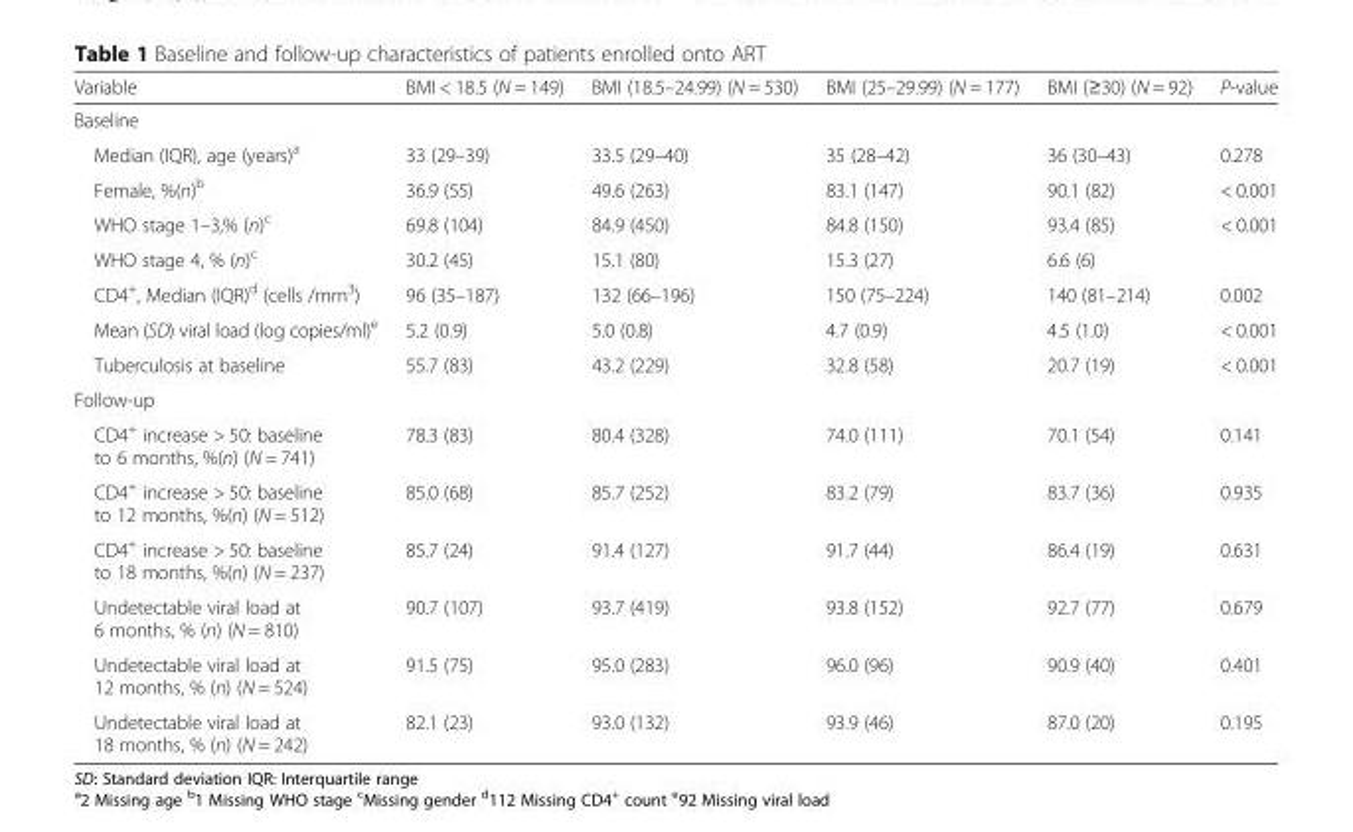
<table><thead><tr><td>Variable</td><td>BMI &lt; 18.5 (N = 149)</td><td>BMI (18.5–24.99) (N = 530)</td><td>BMI (25–29.99) (N = 177)</td><td>BMI (≥30) (N = 92)</td><td>P-value</td></tr></thead><tbody><tr><td colspan="6">Baseline</td></tr><tr><td>Median (IQR), age (years)<sup>a</sup></td><td>33 (29–39)</td><td>33.5 (29–40)</td><td>35 (28–42)</td><td>36 (30–43)</td><td>0.278</td></tr><tr><td>Female, %(n)<sup>b</sup></td><td>36.9 (55)</td><td>49.6 (263)</td><td>83.1 (147)</td><td>90.1 (82)</td><td>&lt; 0.001</td></tr><tr><td>WHO stage 1–3,% (n)<sup>c</sup></td><td>69.8 (104)</td><td>84.9 (450)</td><td>84.8 (150)</td><td>93.4 (85)</td><td>&lt; 0.001</td></tr><tr><td>WHO stage 4, % (n)<sup>c</sup></td><td>30.2 (45)</td><td>15.1 (80)</td><td>15.3 (27)</td><td>6.6 (6)</td><td></td></tr><tr><td>CD4<sup>+</sup>, Median (IQR)<sup>d</sup> (cells /mm<sup>3</sup>)</td><td>96 (35–187)</td><td>132 (66–196)</td><td>150 (75–224)</td><td>140 (81–214)</td><td>0.002</td></tr><tr><td>Mean (SD) viral load (log copies/ml)<sup>e</sup></td><td>5.2 (0.9)</td><td>5.0 (0.8)</td><td>4.7 (0.9)</td><td>4.5 (1.0)</td><td>&lt; 0.001</td></tr><tr><td>Tuberculosis at baseline</td><td>55.7 (83)</td><td>43.2 (229)</td><td>32.8 (58)</td><td>20.7 (19)</td><td>&lt; 0.001</td></tr><tr><td colspan="6">Follow-up</td></tr><tr><td>CD4<sup>+</sup> increase &gt; 50: baseline to 6 months, %(n) (N = 741)</td><td>78.3 (83)</td><td>80.4 (328)</td><td>74.0 (111)</td><td>70.1 (54)</td><td>0.141</td></tr><tr><td>CD4<sup>+</sup> increase &gt; 50: baseline to 12 months, %(n) (N = 512)</td><td>85.0 (68)</td><td>85.7 (252)</td><td>83.2 (79)</td><td>83.7 (36)</td><td>0.935</td></tr><tr><td>CD4<sup>+</sup> increase &gt; 50: baseline to 18 months, %(n) (N = 237)</td><td>85.7 (24)</td><td>91.4 (127)</td><td>91.7 (44)</td><td>86.4 (19)</td><td>0.631</td></tr><tr><td>Undetectable viral load at 6 months, % (n) (N = 810)</td><td>90.7 (107)</td><td>93.7 (419)</td><td>93.8 (152)</td><td>92.7 (77)</td><td>0.679</td></tr><tr><td>Undetectable viral load at 12 months, % (n) (N = 524)</td><td>91.5 (75)</td><td>95.0 (283)</td><td>96.0 (96)</td><td>90.9 (40)</td><td>0.401</td></tr><tr><td>Undetectable viral load at 18 months, % (n) (N = 242)</td><td>82.1 (23)</td><td>93.0 (132)</td><td>93.9 (46)</td><td>87.0 (20)</td><td>0.195</td></tr></tbody></table>